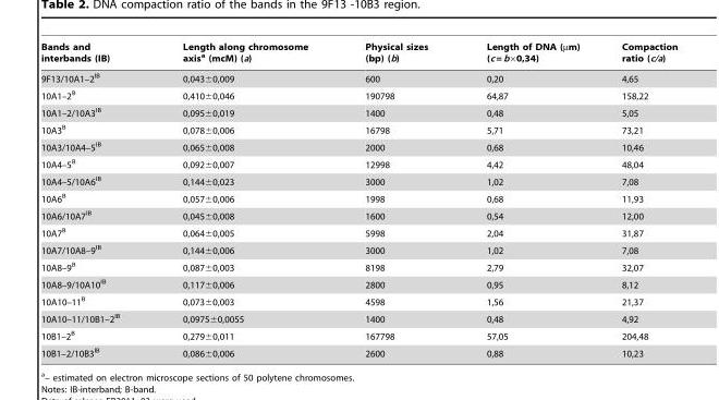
<table><thead><tr><td>Bands and interbands (IB)</td><td>Length along chromosome axis<sup>a</sup> (mcM) (a)</td><td>Physical sizes (bp) (b)</td><td>Length of DNA (µm) (c = b×0,34)</td><td>Compaction ratio (c/a)</td></tr></thead><tbody><tr><td>9F13/10A1–2<sup>IB</sup></td><td>0,043±0,009</td><td>600</td><td>0,20</td><td>4,65</td></tr><tr><td>10A1–2<sup>B</sup></td><td>0,410±0,046</td><td>190798</td><td>64,87</td><td>158,22</td></tr><tr><td>10A1–2/10A3<sup>IB</sup></td><td>0,095±0,019</td><td>1400</td><td>0,48</td><td>5,05</td></tr><tr><td>10A3<sup>B</sup></td><td>0,078±0,006</td><td>16798</td><td>5,71</td><td>73,21</td></tr><tr><td>10A3/10A4–5<sup>IB</sup></td><td>0,065±0,008</td><td>2000</td><td>0,68</td><td>10,46</td></tr><tr><td>10A4–5<sup>B</sup></td><td>0,092±0,007</td><td>12998</td><td>4,42</td><td>48,04</td></tr><tr><td>10A4–5/10A6<sup>IB</sup></td><td>0,144±0,023</td><td>3000</td><td>1,02</td><td>7,08</td></tr><tr><td>10A6<sup>B</sup></td><td>0,057±0,006</td><td>1998</td><td>0,68</td><td>11,93</td></tr><tr><td>10A6/10A7<sup>IB</sup></td><td>0,045±0,008</td><td>1600</td><td>0,54</td><td>12,00</td></tr><tr><td>10A7<sup>B</sup></td><td>0,064±0,005</td><td>5998</td><td>2,04</td><td>31,87</td></tr><tr><td>10A7/10A8–9<sup>IB</sup></td><td>0,144±0,006</td><td>3000</td><td>1,02</td><td>7,08</td></tr><tr><td>10A8–9<sup>B</sup></td><td>0,087±0,003</td><td>8198</td><td>2,79</td><td>32,07</td></tr><tr><td>10A8–9/10A10<sup>IB</sup></td><td>0,117±0,006</td><td>2800</td><td>0,95</td><td>8,12</td></tr><tr><td>10A10–11<sup>B</sup></td><td>0,073±0,003</td><td>4598</td><td>1,56</td><td>21,37</td></tr><tr><td>10A10–11/10B1–2<sup>IB</sup></td><td>0,0975±0,0055</td><td>1400</td><td>0,48</td><td>4,92</td></tr><tr><td>10B1–2<sup>B</sup></td><td>0,279±0,011</td><td>167798</td><td>57,05</td><td>204,48</td></tr><tr><td>10B1–2/10B3<sup>IB</sup></td><td>0,086±0,006</td><td>2600</td><td>0,88</td><td>10,23</td></tr></tbody></table>